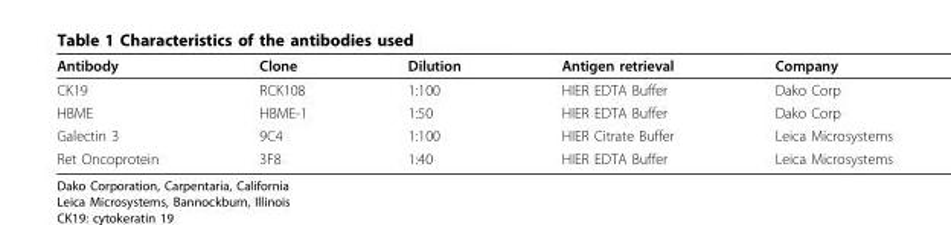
<table><thead><tr><td>Antibody</td><td>Clone</td><td>Dilution</td><td>Antigen retrieval</td><td>Company</td></tr></thead><tbody><tr><td>CK19</td><td>RCK108</td><td>1:100</td><td>HIER EDTA Buffer</td><td>Dako Corp</td></tr><tr><td>HBME</td><td>HBME-1</td><td>1:50</td><td>HIER EDTA Buffer</td><td>Dako Corp</td></tr><tr><td>Galectin 3</td><td>9C4</td><td>1:100</td><td>HIER Citrate Buffer</td><td>Leica Microsystems</td></tr><tr><td>Ret Oncoprotein</td><td>3F8</td><td>1:40</td><td>HIER EDTA Buffer</td><td>Leica Microsystems</td></tr></tbody></table>